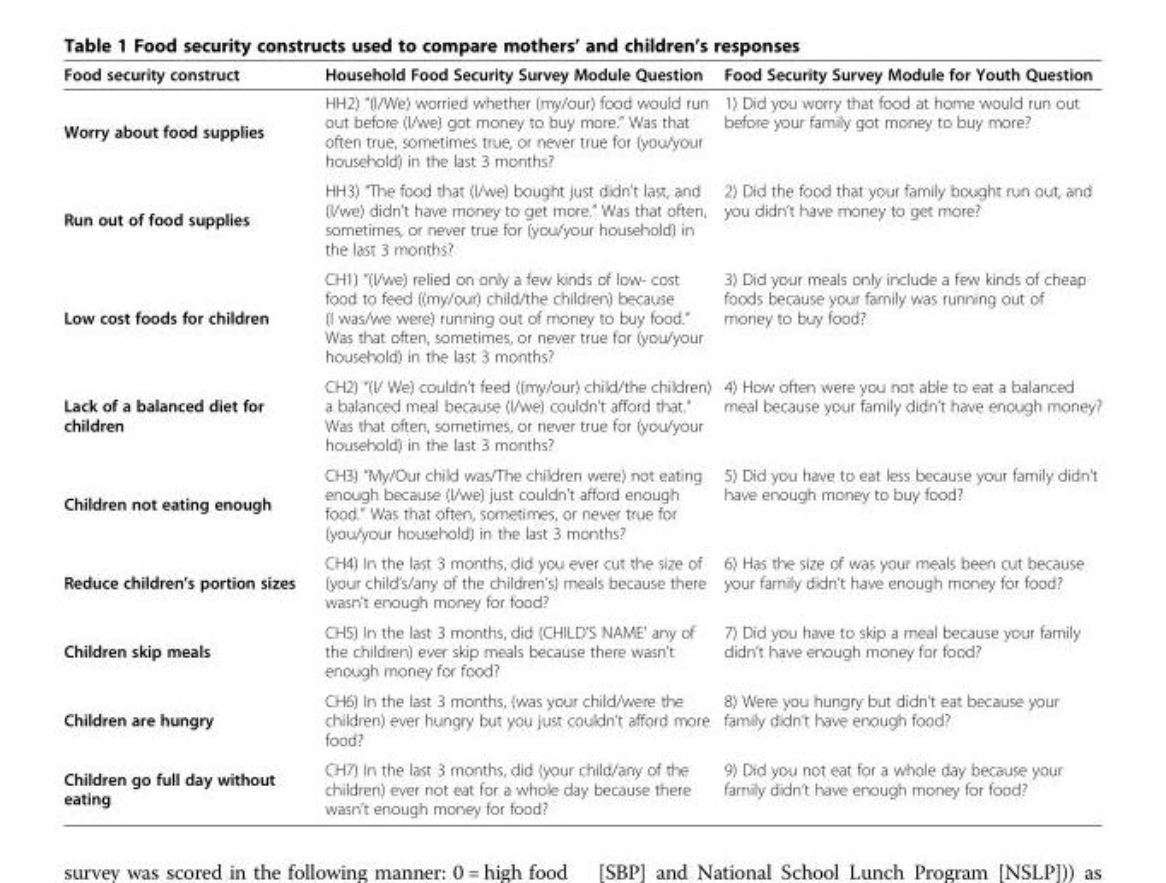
<table><thead><tr><td>Food security construct</td><td>Household Food Security Survey Module Question</td><td>Food Security Survey Module for Youth Question</td></tr></thead><tbody><tr><td>Worry about food supplies</td><td>HH2) “(I/We) worried whether (my/our) food would run out before (I/we) got money to buy more.” Was that often true, sometimes true, or never true for (you/your household) in the last 3 months?</td><td>1) Did you worry that food at home would run out before your family got money to buy more?</td></tr><tr><td>Run out of food supplies</td><td>HH3) “The food that (I/we) bought just didn&#x27;t last, and (l/we) didn&#x27;t have money to get more.” Was that often, sometimes, or never true for (you/your household) in the last 3 months?</td><td>2) Did the food that your family bought run out, and you didn’t have money to get more?</td></tr><tr><td>Low cost foods for children</td><td>CH1) “(I/we) relied on only a few kinds of low- cost food to feed ((my/our) child/the children) because (I was/we were) running out of money to buy food.” Was that often, sometimes, or never true for (you/your household) in the last 3 months?</td><td>3) Did your meals only include a few kinds of cheap foods because your family was running out of money to buy food?</td></tr><tr><td>Lack of a balanced diet for children</td><td>CH2) “(I/ We) couldn’t feed ((my/our) child/the children) a balanced meal because (I/we) couldn’t afford that.“ Was that often, sometimes, or never true for (you/your household) in the last 3 months?</td><td>4) How often were you not able to eat a balanced meal because your family didn’t have enough money?</td></tr><tr><td>Children not eating enough</td><td>CH3) “My/Our child was/The children were) not eating enough because (I/we) just couldn&#x27;t afford enough food.” Was that often, sometimes, or never true for (you/your household) in the last 3 months?</td><td>5) Did you have to eat less because your family didn’t have enough money to buy food?</td></tr><tr><td>Reduce children’s portion sizes</td><td>CH4) In the last 3 months, did you ever cut the size of (your child’s/any of the children’s) meals because there wasn&#x27;t enough money for food?</td><td>6) Has the size of was your meals been cut because your family didn’t have enough money for food?</td></tr><tr><td>Children skip meals</td><td>CH5) In the last 3 months, did (CHILD’S NAME’ any of the children) ever skip meals because there wasn’t enough money for food?</td><td>7) Did you have to skip a meal because your family didn’t have enough money for food?</td></tr><tr><td>Children are hungry</td><td>CH6) In the last 3 months, (was your child/were the children) ever hungry but you just couldn’t afford more food?</td><td>8) Were you hungry but didn’t eat because your family didn’t have enough food?</td></tr><tr><td>Children go full day without eating</td><td>CH7) In the last 3 months, did (your child/any of the children) ever not eat for a whole day because there wasn’t enough money for food?</td><td>9) Did you not eat for a whole day because your family didn’t have enough money for food?</td></tr></tbody></table>